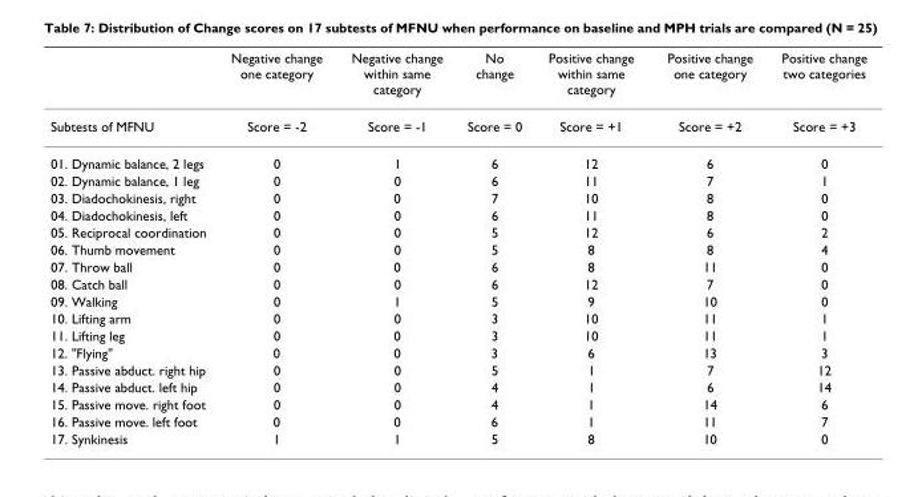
<table><thead><tr><td></td><td>Negative change one category</td><td>Negative change within same category</td><td>No change</td><td>Positive change within same category</td><td>Positive change one category</td><td>Positive change two categories</td></tr></thead><tbody><tr><td>Subtests of MFNU</td><td>Score = -2</td><td>Score = -1</td><td>Score = 0</td><td>Score = +1</td><td>Score = +2</td><td>Score = +3</td></tr><tr><td>01. Dynamic balance, 2 legs</td><td>0</td><td>1</td><td>6</td><td>12</td><td>6</td><td>0</td></tr><tr><td>02. Dynamic balance, 1 leg</td><td>0</td><td>0</td><td>6</td><td>11</td><td>7</td><td>1</td></tr><tr><td>03. Diadochokinesis, right</td><td>0</td><td>0</td><td>7</td><td>10</td><td>8</td><td>0</td></tr><tr><td>04. Diadochokinesis, left</td><td>0</td><td>0</td><td>6</td><td>11</td><td>8</td><td>0</td></tr><tr><td>05. Reciprocal coordination</td><td>0</td><td>0</td><td>5</td><td>12</td><td>6</td><td>2</td></tr><tr><td>06. Thumb movement</td><td>0</td><td>0</td><td>5</td><td>8</td><td>8</td><td>4</td></tr><tr><td>07. Throw ball</td><td>0</td><td>0</td><td>6</td><td>8</td><td>11</td><td>0</td></tr><tr><td>08. Catch ball</td><td>0</td><td>0</td><td>6</td><td>12</td><td>7</td><td>0</td></tr><tr><td>09. Walking</td><td>0</td><td>1</td><td>5</td><td>9</td><td>10</td><td>0</td></tr><tr><td>10. Lifting arm</td><td>0</td><td>0</td><td>3</td><td>10</td><td>11</td><td>1</td></tr><tr><td>11. Lifting leg</td><td>0</td><td>0</td><td>3</td><td>10</td><td>11</td><td>1</td></tr><tr><td>12. &quot;Flying&quot;</td><td>0</td><td>0</td><td>3</td><td>6</td><td>13</td><td>3</td></tr><tr><td>13. Passive abduct. right hip</td><td>0</td><td>0</td><td>5</td><td>1</td><td>7</td><td>12</td></tr><tr><td>14. Passive abduct. left hip</td><td>0</td><td>0</td><td>4</td><td>1</td><td>6</td><td>14</td></tr><tr><td>15. Passive move. right foot</td><td>0</td><td>0</td><td>4</td><td>1</td><td>14</td><td>6</td></tr><tr><td>16. Passive move. left foot</td><td>0</td><td>0</td><td>6</td><td>1</td><td>11</td><td>7</td></tr><tr><td>17. Synkinesis</td><td>1</td><td>1</td><td>5</td><td>8</td><td>10</td><td>0</td></tr></tbody></table>